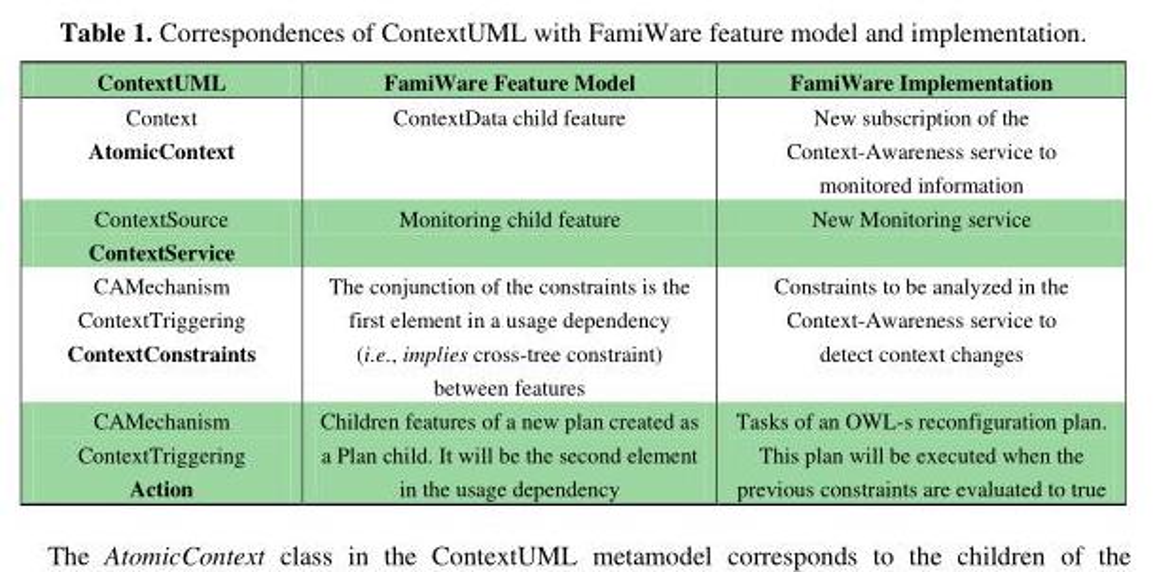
<table><thead><tr><td>ContextUML</td><td>FamiWare Feature Model</td><td>FamiWare Implementation</td></tr></thead><tbody><tr><td>Context AtomicContext</td><td>ContextData child feature</td><td>New subscription of the Context-Awareness service to monitored information</td></tr><tr><td>ContextSource ContextService</td><td>Monitoring child feature</td><td>New Monitoring service</td></tr><tr><td>CAMechanism ContextTriggering ContextConstraints</td><td>The conjunction of the constraints is the first element in a usage dependency (i.e., implies cross-tree constraint) between features</td><td>Constraints to be analyzed in the Context-Awareness service to detect context changes</td></tr><tr><td>CAMechanism ContextTriggering Action</td><td>Children features of a new plan created as a Plan child. It will be the second element in the usage dependency</td><td>Tasks of an OWL-s reconfiguration plan. This plan will be executed when the previous constraints are evaluated to true</td></tr></tbody></table>